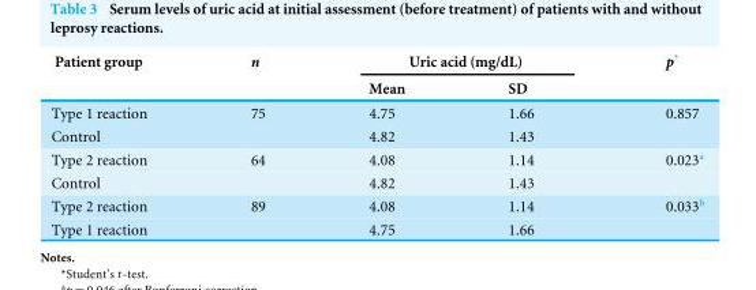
<table><thead><tr><td rowspan="2">Patient group</td><td rowspan="2">n</td><td colspan="2">Uric acid (mg/dL)</td><td rowspan="2">p*</td></tr><tr><td>Mean</td><td>SD</td></tr></thead><tbody><tr><td>Type 1 reaction</td><td>75</td><td>4.75</td><td>1.66</td><td>0.857</td></tr><tr><td>Control</td><td></td><td>4.82</td><td>1.43</td><td></td></tr><tr><td>Type 2 reaction</td><td>64</td><td>4.08</td><td>1.14</td><td>0.023<sup>a</sup></td></tr><tr><td>Control</td><td></td><td>4.82</td><td>1.43</td><td></td></tr><tr><td>Type 2 reaction</td><td>89</td><td>4.08</td><td>1.14</td><td>0.033<sup>b</sup></td></tr><tr><td>Type 1 reaction</td><td></td><td>4.75</td><td>1.66</td><td></td></tr></tbody></table>